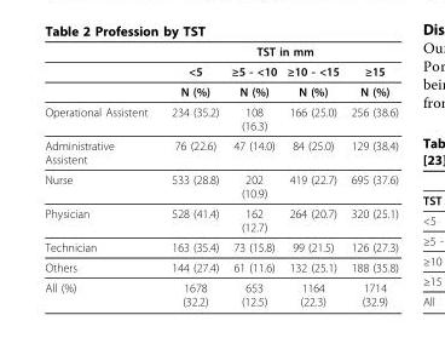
<table><thead><tr><td rowspan="2"></td><td colspan="4">TST in mm</td></tr><tr><td>&lt;5</td><td>≥5 - &lt;10</td><td>≥10 - &lt;15</td><td>≥15</td></tr></thead><tbody><tr><td></td><td>N (%)</td><td>N (%)</td><td>N (%)</td><td>N (%)</td></tr><tr><td>Operational Assistent</td><td>234 (35.2)</td><td>108 (16.3)</td><td>166 (25.0)</td><td>256 (38.6)</td></tr><tr><td>Administrative Assistent</td><td>76 (22.6)</td><td>47 (14.0)</td><td>84 (25.0)</td><td>129 (38.4)</td></tr><tr><td>Nurse</td><td>533 (28.8)</td><td>202 (10.9)</td><td>419 (22.7)</td><td>695 (37.6)</td></tr><tr><td>Physician</td><td>528 (41.4)</td><td>162 (12.7)</td><td>264 (20.7)</td><td>320 (25.1)</td></tr><tr><td>Technician</td><td>163 (35.4)</td><td>73 (15.8)</td><td>99 (21.5)</td><td>126 (27.3)</td></tr><tr><td>Others</td><td>144 (27.4)</td><td>61 (11.6)</td><td>132 (25.1)</td><td>188 (35.8)</td></tr><tr><td>All (%)</td><td>1678 (32.2)</td><td>653 (12.5)</td><td>1164 (22.3)</td><td>1714 (32.9)</td></tr></tbody></table>